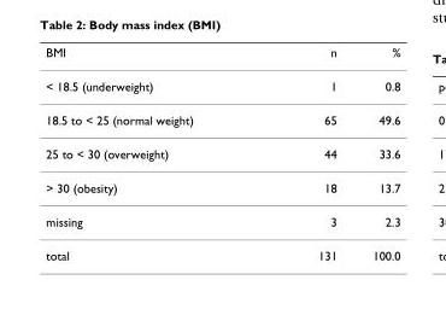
<table><thead><tr><td>BMI</td><td>n</td><td>%</td></tr></thead><tbody><tr><td>&lt; 18.5 (underweight)</td><td>1</td><td>0.8</td></tr><tr><td>18.5 to &lt; 25 (normal weight)</td><td>65</td><td>49.6</td></tr><tr><td>25 to &lt; 30 (overweight)</td><td>44</td><td>33.6</td></tr><tr><td>&gt; 30 (obesity)</td><td>18</td><td>13.7</td></tr><tr><td>missing</td><td>3</td><td>2.3</td></tr><tr><td>total</td><td>131</td><td>100.0</td></tr></tbody></table>